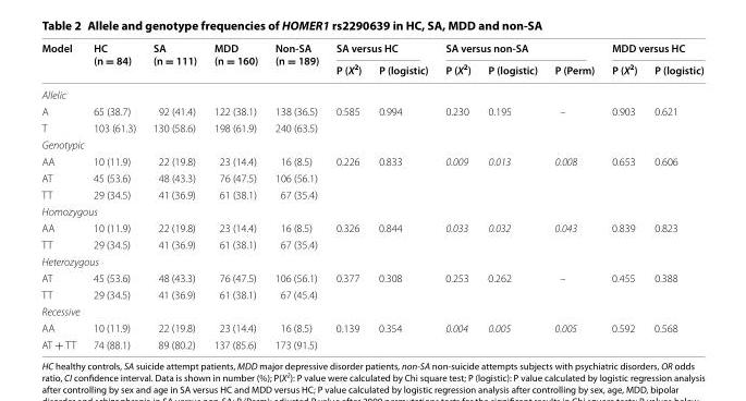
<table><thead><tr><td rowspan="2">Model</td><td rowspan="2">HC (n = 84)</td><td rowspan="2">SA (n = 111)</td><td rowspan="2">MDD (n = 160)</td><td rowspan="2">Non-SA (n = 189)</td><td colspan="2">SA versus HC</td><td colspan="3">SA versus non-SA</td><td colspan="2">MDD versus HC</td></tr><tr><td>P (X<sup>2</sup>)</td><td>P (logistic)</td><td>P (X<sup>2</sup>)</td><td>P (logistic)</td><td>P (Perm)</td><td>P (X<sup>2</sup>)</td><td>P (logistic)</td></tr></thead><tbody><tr><td colspan="12">Allelic</td></tr><tr><td>A</td><td>65 (38.7)</td><td>92 (41.4)</td><td>122 (38.1)</td><td>138 (36.5)</td><td rowspan="2">0.585</td><td rowspan="2">0.994</td><td rowspan="2">0.230</td><td rowspan="2">0.195</td><td rowspan="2">–</td><td rowspan="2">0.903</td><td rowspan="2">0.621</td></tr><tr><td>T</td><td>103 (61.3)</td><td>130 (58.6)</td><td>198 (61.9)</td><td>240 (63.5)</td></tr><tr><td colspan="12">Genotypic</td></tr><tr><td>AA</td><td>10 (11.9)</td><td>22 (19.8)</td><td>23 (14.4)</td><td>16 (8.5)</td><td rowspan="3">0.226</td><td rowspan="3">0.833</td><td rowspan="3">0.009</td><td rowspan="3">0.013</td><td rowspan="3">0.008</td><td rowspan="3">0.653</td><td rowspan="3">0.606</td></tr><tr><td>AT</td><td>45 (53.6)</td><td>48 (43.3)</td><td>76 (47.5)</td><td>106 (56.1)</td></tr><tr><td>TT</td><td>29 (34.5)</td><td>41 (36.9)</td><td>61 (38.1)</td><td>67 (35.4)</td></tr><tr><td colspan="12">Homozygous</td></tr><tr><td>AA</td><td>10 (11.9)</td><td>22 (19.8)</td><td>23 (14.4)</td><td>16 (8.5)</td><td rowspan="2">0.326</td><td rowspan="2">0.844</td><td rowspan="2">0.033</td><td rowspan="2">0.032</td><td rowspan="2">0.043</td><td rowspan="2">0.839</td><td rowspan="2">0.823</td></tr><tr><td>TT</td><td>29 (34.5)</td><td>41 (36.9)</td><td>61 (38.1)</td><td>67 (35.4)</td></tr><tr><td colspan="12">Heterozygous</td></tr><tr><td>AT</td><td>45 (53.6)</td><td>48 (43.3)</td><td>76 (47.5)</td><td>106 (56.1)</td><td rowspan="2">0.377</td><td rowspan="2">0.308</td><td rowspan="2">0.253</td><td rowspan="2">0.262</td><td rowspan="2">–</td><td rowspan="2">0.455</td><td rowspan="2">0.388</td></tr><tr><td>TT</td><td>29 (34.5)</td><td>41 (36.9)</td><td>61 (38.1)</td><td>67 (45.4)</td></tr><tr><td colspan="12">Recessive</td></tr><tr><td>AA</td><td>10 (11.9)</td><td>22 (19.8)</td><td>23 (14.4)</td><td>16 (8.5)</td><td rowspan="2">0.139</td><td rowspan="2">0.354</td><td rowspan="2">0.004</td><td rowspan="2">0.005</td><td rowspan="2">0.005</td><td rowspan="2">0.592</td><td rowspan="2">0.568</td></tr><tr><td>AT + TT</td><td>74 (88.1)</td><td>89 (80.2)</td><td>137 (85.6)</td><td>173 (91.5)</td></tr></tbody></table>